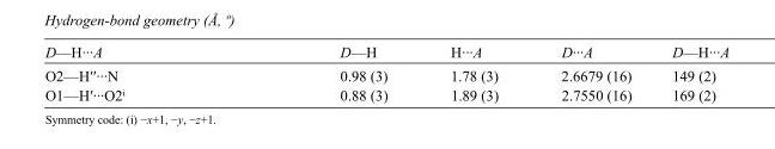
<table><tbody><tr><td>D—H···A</td><td>D—H</td><td>H···A</td><td>D···A</td><td>D—H···A</td></tr><tr><td>O2—H′′···N</td><td>0.98 (3)</td><td>1.78 (3)</td><td>2.6679 (16)</td><td>149 (2)</td></tr><tr><td>O1—H′···O2<sup>i</sup></td><td>0.88 (3)</td><td>1.89 (3)</td><td>2.7550 (16)</td><td>169 (2)</td></tr></tbody></table>